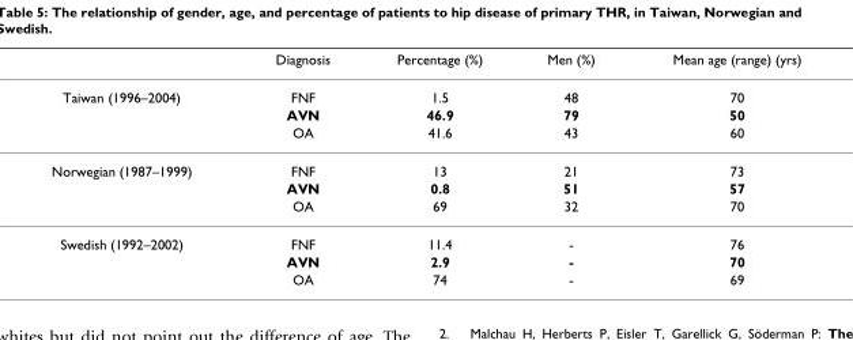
<table><thead><tr><td></td><td>Diagnosis</td><td>Percentage (%)</td><td>Men (%)</td><td>Mean age (range) (yrs)</td></tr></thead><tbody><tr><td rowspan="3">Taiwan (1996–2004)</td><td>FNF</td><td>1.5</td><td>48</td><td>70</td></tr><tr><td>AVN</td><td>46.9</td><td>79</td><td>50</td></tr><tr><td>OA</td><td>41.6</td><td>43</td><td>60</td></tr><tr><td rowspan="3">Norwegian (1987–1999)</td><td>FNF</td><td>13</td><td>21</td><td>73</td></tr><tr><td>AVN</td><td>0.8</td><td>51</td><td>57</td></tr><tr><td>OA</td><td>69</td><td>32</td><td>70</td></tr><tr><td rowspan="3">Swedish (1992–2002)</td><td>FNF</td><td>11.4</td><td>-</td><td>76</td></tr><tr><td>AVN</td><td>2.9</td><td>-</td><td>70</td></tr><tr><td>OA</td><td>74</td><td>-</td><td>69</td></tr></tbody></table>